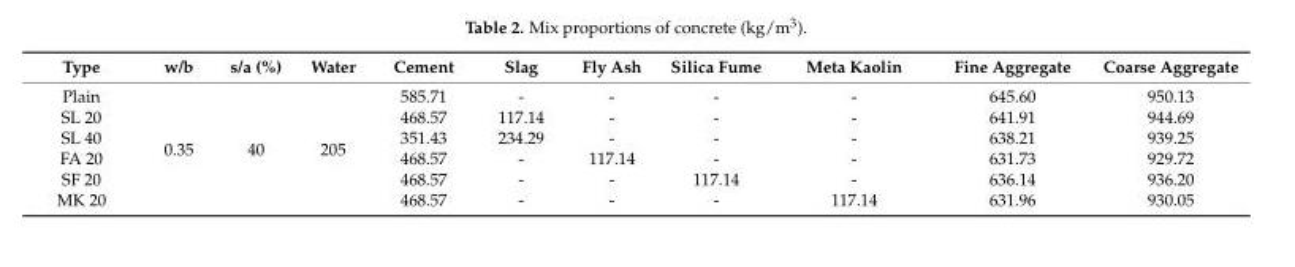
<table><thead><tr><td>Type</td><td>w/b</td><td>s/a (%)</td><td>Water</td><td>Cement</td><td>Slag</td><td>Fly Ash</td><td>Silica Fume</td><td>Meta Kaolin</td><td>Fine Aggregate</td><td>Coarse Aggregate</td></tr></thead><tbody><tr><td>Plain</td><td rowspan="6">0.35</td><td rowspan="6">40</td><td rowspan="6">205</td><td>585.71</td><td>-</td><td>-</td><td>-</td><td>-</td><td>645.60</td><td>950.13</td></tr><tr><td>SL 20</td><td>468.57</td><td>117.14</td><td>-</td><td>-</td><td>-</td><td>641.91</td><td>944.69</td></tr><tr><td>SL 40</td><td>351.43</td><td>234.29</td><td>-</td><td>-</td><td>-</td><td>638.21</td><td>939.25</td></tr><tr><td>FA 20</td><td>468.57</td><td>-</td><td>117.14</td><td>-</td><td>-</td><td>631.73</td><td>929.72</td></tr><tr><td>SF 20</td><td>468.57</td><td>-</td><td>-</td><td>117.14</td><td>-</td><td>636.14</td><td>936.20</td></tr><tr><td>MK 20</td><td>468.57</td><td>-</td><td>-</td><td>-</td><td>117.14</td><td>631.96</td><td>930.05</td></tr></tbody></table>